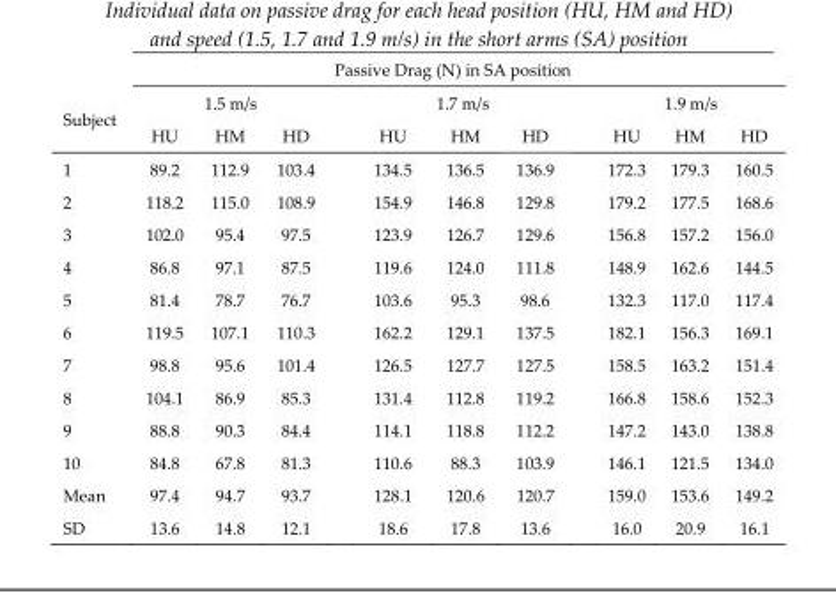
<table><thead><tr><td rowspan="3">Subject</td><td colspan="9">Passive Drag (N) in SA position</td></tr><tr><td colspan="3">1.5 m/s</td><td colspan="3">1.7 m/s</td><td colspan="3">1.9 m/s</td></tr><tr><td>HU</td><td>HM</td><td>HD</td><td>HU</td><td>HM</td><td>HD</td><td>HU</td><td>HM</td><td>HD</td></tr></thead><tbody><tr><td>1</td><td>89.2</td><td>112.9</td><td>103.4</td><td>134.5</td><td>136.5</td><td>136.9</td><td>172.3</td><td>179.3</td><td>160.5</td></tr><tr><td>2</td><td>118.2</td><td>115.0</td><td>108.9</td><td>154.9</td><td>146.8</td><td>129.8</td><td>179.2</td><td>177.5</td><td>168.6</td></tr><tr><td>3</td><td>102.0</td><td>95.4</td><td>97.5</td><td>123.9</td><td>126.7</td><td>129.6</td><td>156.8</td><td>157.2</td><td>156.0</td></tr><tr><td>4</td><td>86.8</td><td>97.1</td><td>87.5</td><td>119.6</td><td>124.0</td><td>111.8</td><td>148.9</td><td>162.6</td><td>144.5</td></tr><tr><td>5</td><td>81.4</td><td>78.7</td><td>76.7</td><td>103.6</td><td>95.3</td><td>98.6</td><td>132.3</td><td>117.0</td><td>117.4</td></tr><tr><td>6</td><td>119.5</td><td>107.1</td><td>110.3</td><td>162.2</td><td>129.1</td><td>137.5</td><td>182.1</td><td>156.3</td><td>169.1</td></tr><tr><td>7</td><td>98.8</td><td>95.6</td><td>101.4</td><td>126.5</td><td>127.7</td><td>127.5</td><td>158.5</td><td>163.2</td><td>151.4</td></tr><tr><td>8</td><td>104.1</td><td>86.9</td><td>85.3</td><td>131.4</td><td>112.8</td><td>119.2</td><td>166.8</td><td>158.6</td><td>152.3</td></tr><tr><td>9</td><td>88.8</td><td>90.3</td><td>84.4</td><td>114.1</td><td>118.8</td><td>112.2</td><td>147.2</td><td>143.0</td><td>138.8</td></tr><tr><td>10</td><td>84.8</td><td>67.8</td><td>81.3</td><td>110.6</td><td>88.3</td><td>103.9</td><td>146.1</td><td>121.5</td><td>134.0</td></tr><tr><td>Mean</td><td>97.4</td><td>94.7</td><td>93.7</td><td>128.1</td><td>120.6</td><td>120.7</td><td>159.0</td><td>153.6</td><td>149.2</td></tr><tr><td>SD</td><td>13.6</td><td>14.8</td><td>12.1</td><td>18.6</td><td>17.8</td><td>13.6</td><td>16.0</td><td>20.9</td><td>16.1</td></tr></tbody></table>